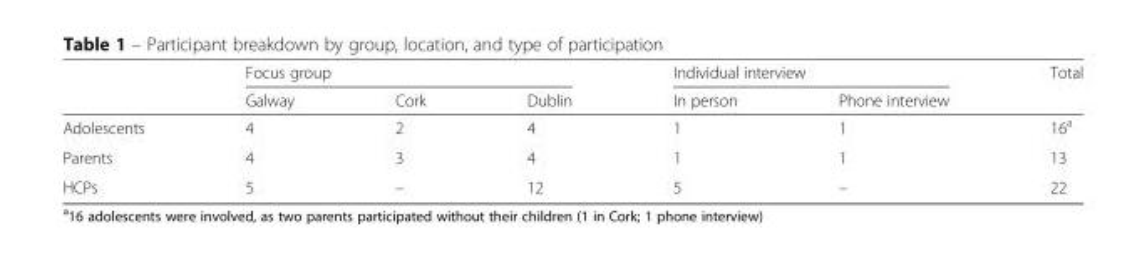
<table><thead><tr><td rowspan="2"></td><td colspan="3">Focus group</td><td colspan="2">Individual interview</td><td rowspan="2">Total</td></tr><tr><td>Galway</td><td>Cork</td><td>Dublin</td><td>In person</td><td>Phone interview</td></tr></thead><tbody><tr><td>Adolescents</td><td>4</td><td>2</td><td>4</td><td>1</td><td>1</td><td>16<sup>a</sup></td></tr><tr><td>Parents</td><td>4</td><td>3</td><td>4</td><td>1</td><td>1</td><td>13</td></tr><tr><td>HCPs</td><td>5</td><td>–</td><td>12</td><td>5</td><td>–</td><td>22</td></tr></tbody></table>